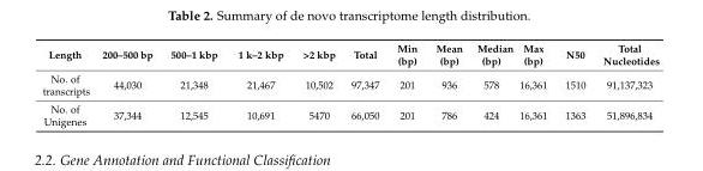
<table><thead><tr><td>Length</td><td>200–500 bp</td><td>500–1 kbp</td><td>1 k–2 kbp</td><td>&gt;2 kbp</td><td>Total</td><td>Min (bp)</td><td>Mean (bp)</td><td>Median (bp)</td><td>Max (bp)</td><td>N50</td><td>Total Nucleotides</td></tr></thead><tbody><tr><td>No. of transcripts</td><td>44,030</td><td>21,348</td><td>21,467</td><td>10,502</td><td>97,347</td><td>201</td><td>936</td><td>578</td><td>16,361</td><td>1510</td><td>91,137,323</td></tr><tr><td>No. of Unigenes</td><td>37,344</td><td>12,545</td><td>10,691</td><td>5470</td><td>66,050</td><td>201</td><td>786</td><td>424</td><td>16,361</td><td>1363</td><td>51,896,834</td></tr></tbody></table>